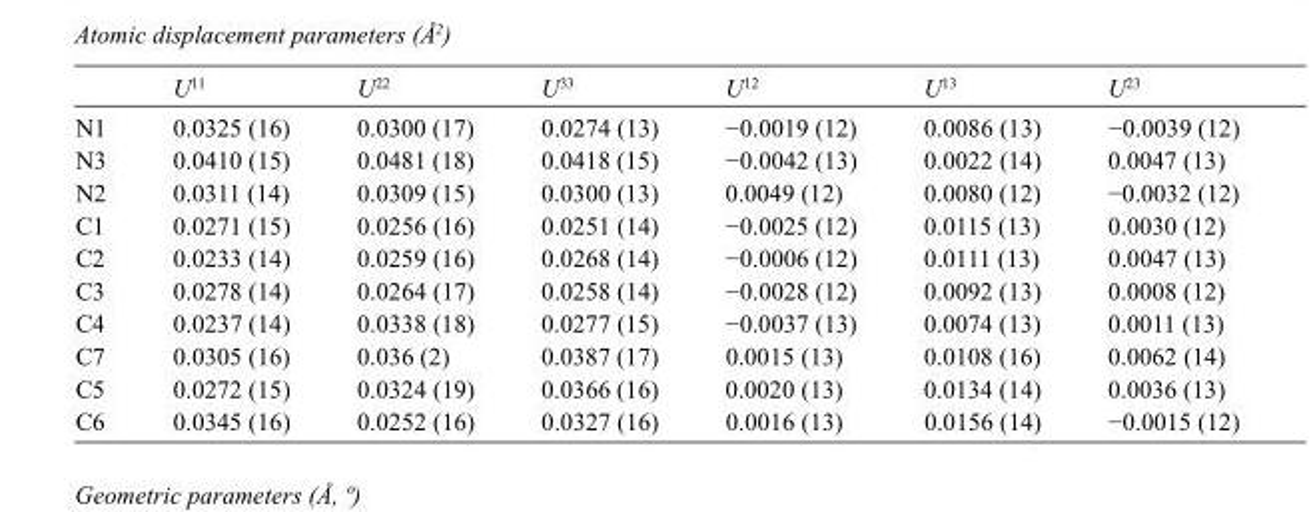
<table><thead><tr><td></td><td>U<sup>11</sup></td><td>U<sup>22</sup></td><td>U<sup>33</sup></td><td>U<sup>12</sup></td><td>U<sup>13</sup></td><td>U<sup>23</sup></td></tr></thead><tbody><tr><td>N1</td><td>0.0325 (16)</td><td>0.0300 (17)</td><td>0.0274 (13)</td><td>−0.0019 (12)</td><td>0.0086 (13)</td><td>−0.0039 (12)</td></tr><tr><td>N3</td><td>0.0410 (15)</td><td>0.0481 (18)</td><td>0.0418 (15)</td><td>−0.0042 (13)</td><td>0.0022 (14)</td><td>0.0047 (13)</td></tr><tr><td>N2</td><td>0.0311 (14)</td><td>0.0309 (15)</td><td>0.0300 (13)</td><td>0.0049 (12)</td><td>0.0080 (12)</td><td>−0.0032 (12)</td></tr><tr><td>C1</td><td>0.0271 (15)</td><td>0.0256 (16)</td><td>0.0251 (14)</td><td>−0.0025 (12)</td><td>0.0115 (13)</td><td>0.0030 (12)</td></tr><tr><td>C2</td><td>0.0233 (14)</td><td>0.0259 (16)</td><td>0.0268 (14)</td><td>−0.0006 (12)</td><td>0.0111 (13)</td><td>0.0047 (13)</td></tr><tr><td>C3</td><td>0.0278 (14)</td><td>0.0264 (17)</td><td>0.0258 (14)</td><td>−0.0028 (12)</td><td>0.0092 (13)</td><td>0.0008 (12)</td></tr><tr><td>C4</td><td>0.0237 (14)</td><td>0.0338 (18)</td><td>0.0277 (15)</td><td>−0.0037 (13)</td><td>0.0074 (13)</td><td>0.0011 (13)</td></tr><tr><td>C7</td><td>0.0305 (16)</td><td>0.036 (2)</td><td>0.0387 (17)</td><td>0.0015 (13)</td><td>0.0108 (16)</td><td>0.0062 (14)</td></tr><tr><td>C5</td><td>0.0272 (15)</td><td>0.0324 (19)</td><td>0.0366 (16)</td><td>0.0020 (13)</td><td>0.0134 (14)</td><td>0.0036 (13)</td></tr><tr><td>C6</td><td>0.0345 (16)</td><td>0.0252 (16)</td><td>0.0327 (16)</td><td>0.0016 (13)</td><td>0.0156 (14)</td><td>−0.0015 (12)</td></tr></tbody></table>